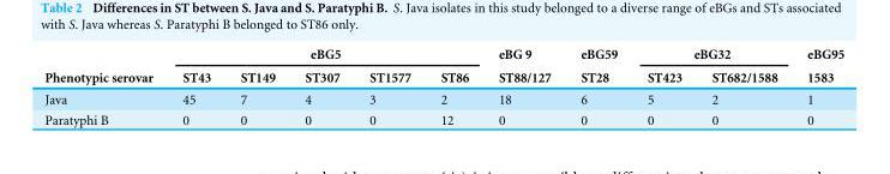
<table><thead><tr><td rowspan="2">Phenotypic serovar</td><td colspan="5">eBG5</td><td rowspan="2">eBG 9 ST88/127</td><td rowspan="2">eBG59 ST28</td><td colspan="2">eBG32</td><td rowspan="2">eBG95 1583</td></tr><tr><td>ST43</td><td>ST149</td><td>ST307</td><td>ST1577</td><td>ST86</td><td>ST423</td><td>ST682/1588</td></tr></thead><tbody><tr><td>Java</td><td>45</td><td>7</td><td>4</td><td>3</td><td>2</td><td>18</td><td>6</td><td>5</td><td>2</td><td>1</td></tr><tr><td>Paratyphi B</td><td>0</td><td>0</td><td>0</td><td>0</td><td>12</td><td>0</td><td>0</td><td>0</td><td>0</td><td>0</td></tr></tbody></table>